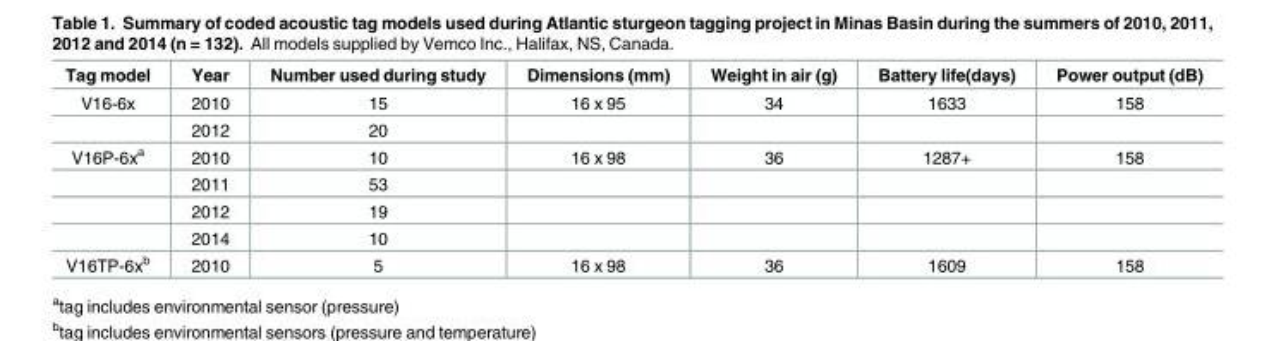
<table><thead><tr><td>Tag model</td><td>Year</td><td>Number used during study</td><td>Dimensions (mm)</td><td>Weight in air (g)</td><td>Battery life(days)</td><td>Power output (dB)</td></tr></thead><tbody><tr><td rowspan="2">V16-6x</td><td>2010</td><td>15</td><td>16 x 95</td><td>34</td><td>1633</td><td>158</td></tr><tr><td>2012</td><td>20</td><td></td><td></td><td></td><td></td></tr><tr><td rowspan="4">V16P-6x<sup>a</sup></td><td>2010</td><td>10</td><td>16 x 98</td><td>36</td><td>1287+</td><td>158</td></tr><tr><td>2011</td><td>53</td><td></td><td></td><td></td><td></td></tr><tr><td>2012</td><td>19</td><td></td><td></td><td></td><td></td></tr><tr><td>2014</td><td>10</td><td></td><td></td><td></td><td></td></tr><tr><td>V16TP-6x<sup>b</sup></td><td>2010</td><td>5</td><td>16 x 98</td><td>36</td><td>1609</td><td>158</td></tr></tbody></table>